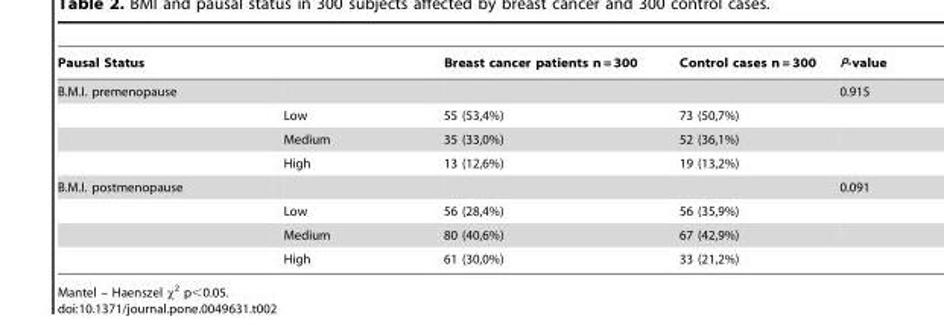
<table><thead><tr><td>Pausal Status</td><td></td><td>Breast cancer patients n = 300</td><td>Control cases n = 300</td><td>P-value</td></tr></thead><tbody><tr><td rowspan="4">B.M.I. premenopause</td><td></td><td></td><td></td><td>0.915</td></tr><tr><td>Low</td><td>55 (53,4%)</td><td>73 (50,7%)</td><td></td></tr><tr><td>Medium</td><td>35 (33,0%)</td><td>52 (36,1%)</td><td></td></tr><tr><td>High</td><td>13 (12,6%)</td><td>19 (13,2%)</td><td></td></tr><tr><td rowspan="4">B.M.I. postmenopause</td><td></td><td></td><td></td><td>0.091</td></tr><tr><td>Low</td><td>56 (28,4%)</td><td>56 (35,9%)</td><td></td></tr><tr><td>Medium</td><td>80 (40,6%)</td><td>67 (42,9%)</td><td></td></tr><tr><td>High</td><td>61 (30,0%)</td><td>33 (21,2%)</td><td></td></tr></tbody></table>